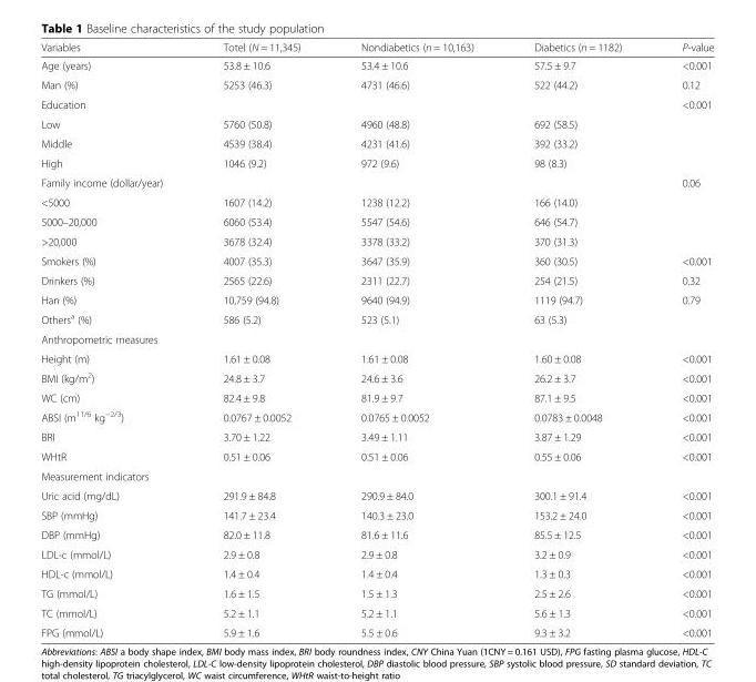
<table><thead><tr><td>Variables</td><td>Totel (N = 11,345)</td><td>Nondiabetics (n = 10,163)</td><td>Diabetics (n = 1182)</td><td>P-value</td></tr></thead><tbody><tr><td>Age (years)</td><td>53.8 ± 10.6</td><td>53.4 ± 10.6</td><td>57.5 ± 9.7</td><td>&lt;0.001</td></tr><tr><td>Man (%)</td><td>5253 (46.3)</td><td>4731 (46.6)</td><td>522 (44.2)</td><td>0.12</td></tr><tr><td>Education</td><td></td><td></td><td></td><td>&lt;0.001</td></tr><tr><td>Low</td><td>5760 (50.8)</td><td>4960 (48.8)</td><td>692 (58.5)</td><td></td></tr><tr><td>Middle</td><td>4539 (38.4)</td><td>4231 (41.6)</td><td>392 (33.2)</td><td></td></tr><tr><td>High</td><td>1046 (9.2)</td><td>972 (9.6)</td><td>98 (8.3)</td><td></td></tr><tr><td>Family income (dollar/year)</td><td></td><td></td><td></td><td>0.06</td></tr><tr><td>&lt;5000</td><td>1607 (14.2)</td><td>1238 (12.2)</td><td>166 (14.0)</td><td></td></tr><tr><td>5000–20,000</td><td>6060 (53.4)</td><td>5547 (54.6)</td><td>646 (54.7)</td><td></td></tr><tr><td>&gt;20,000</td><td>3678 (32.4)</td><td>3378 (33.2)</td><td>370 (31.3)</td><td></td></tr><tr><td>Smokers (%)</td><td>4007 (35.3)</td><td>3647 (35.9)</td><td>360 (30.5)</td><td>&lt;0.001</td></tr><tr><td>Drinkers (%)</td><td>2565 (22.6)</td><td>2311 (22.7)</td><td>254 (21.5)</td><td>0.32</td></tr><tr><td>Han (%)</td><td>10,759 (94.8)</td><td>9640 (94.9)</td><td>1119 (94.7)</td><td>0.79</td></tr><tr><td>Others<sup>a</sup> (%)</td><td>586 (5.2)</td><td>523 (5.1)</td><td>63 (5.3)</td><td></td></tr><tr><td colspan="5">Anthropometric measures</td></tr><tr><td>Height (m)</td><td>1.61 ± 0.08</td><td>1.61 ± 0.08</td><td>1.60 ± 0.08</td><td>&lt;0.001</td></tr><tr><td>BMI (kg/m<sup>2</sup>)</td><td>24.8 ± 3.7</td><td>24.6 ± 3.6</td><td>26.2 ± 3.7</td><td>&lt;0.001</td></tr><tr><td>WC (cm)</td><td>82.4 ± 9.8</td><td>81.9 ± 9.7</td><td>87.1 ± 9.5</td><td>&lt;0.001</td></tr><tr><td>ABSI (m<sup>11/6</sup> kg<sup>−2/3</sup>)</td><td>0.0767 ± 0.0052</td><td>0.0765 ± 0.0052</td><td>0.0783 ± 0.0048</td><td>&lt;0.001</td></tr><tr><td>BRI</td><td>3.70 ± 1.22</td><td>3.49 ± 1.11</td><td>3.87 ± 1.29</td><td>&lt;0.001</td></tr><tr><td>WHtR</td><td>0.51 ± 0.06</td><td>0.51 ± 0.06</td><td>0.55 ± 0.06</td><td>&lt;0.001</td></tr><tr><td colspan="5">Measurement indicators</td></tr><tr><td>Uric acid (mg/dL)</td><td>291.9 ± 84.8</td><td>290.9 ± 84.0</td><td>300.1 ± 91.4</td><td>&lt;0.001</td></tr><tr><td>SBP (mmHg)</td><td>141.7 ± 23.4</td><td>140.3 ± 23.0</td><td>153.2 ± 24.0</td><td>&lt;0.001</td></tr><tr><td>DBP (mmHg)</td><td>82.0 ± 11.8</td><td>81.6 ± 11.6</td><td>85.5 ± 12.5</td><td>&lt;0.001</td></tr><tr><td>LDL-c (mmol/L)</td><td>2.9 ± 0.8</td><td>2.9 ± 0.8</td><td>3.2 ± 0.9</td><td>&lt;0.001</td></tr><tr><td>HDL-c (mmol/L)</td><td>1.4 ± 0.4</td><td>1.4 ± 0.4</td><td>1.3 ± 0.3</td><td>&lt;0.001</td></tr><tr><td>TG (mmol/L)</td><td>1.6 ± 1.5</td><td>1.5 ± 1.3</td><td>2.5 ± 2.6</td><td>&lt;0.001</td></tr><tr><td>TC (mmol/L)</td><td>5.2 ± 1.1</td><td>5.2 ± 1.1</td><td>5.6 ± 1.3</td><td>&lt;0.001</td></tr><tr><td>FPG (mmol/L)</td><td>5.9 ± 1.6</td><td>5.5 ± 0.6</td><td>9.3 ± 3.2</td><td>&lt;0.001</td></tr></tbody></table>